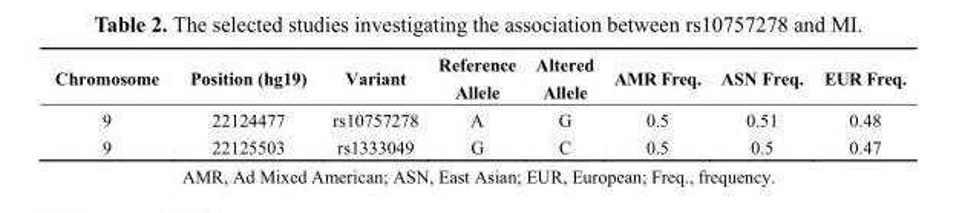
<table><thead><tr><td>Chromosome</td><td>Position (hg19)</td><td>Variant</td><td>Reference Allele</td><td>Altered Allele</td><td>AMR Freq.</td><td>ASN Freq.</td><td>EUR Freq.</td></tr></thead><tbody><tr><td>9</td><td>22124477</td><td>rs10757278</td><td>A</td><td>G</td><td>0.5</td><td>0.51</td><td>0.48</td></tr><tr><td>9</td><td>22125503</td><td>rs1333049</td><td>G</td><td>C</td><td>0.5</td><td>0.5</td><td>0.47</td></tr></tbody></table>